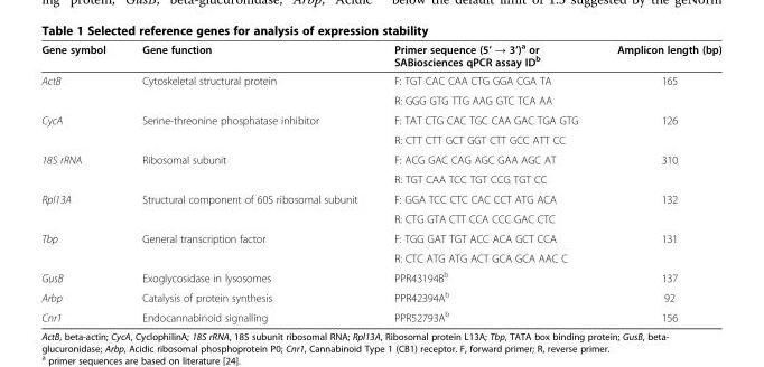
<table><thead><tr><td>Gene symbol</td><td>Gene function</td><td>Primer sequence (5’ → 3’)<sup>a</sup> or SABiosciences qPCR assay ID<sup>b</sup></td><td>Amplicon length (bp)</td></tr></thead><tbody><tr><td rowspan="2">ActB</td><td rowspan="2">Cytoskeletal structural protein</td><td>F: TGT CAC CAA CTG GGA CGA TA</td><td rowspan="2">165</td></tr><tr><td>R: GGG GTG TTG AAG GTC TCA AA</td></tr><tr><td rowspan="2">CycA</td><td rowspan="2">Serine-threonine phosphatase inhibitor</td><td>F: TAT CTG CAC TGC CAA GAC TGA GTG</td><td rowspan="2">126</td></tr><tr><td>R: CTT CTT GCT GGT CTT GCC ATT CC</td></tr><tr><td rowspan="2">18S rRNA</td><td rowspan="2">Ribosomal subunit</td><td>F: ACG GAC CAG AGC GAA AGC AT</td><td rowspan="2">310</td></tr><tr><td>R: TGT CAA TCC TGT CCG TGT CC</td></tr><tr><td rowspan="2">Rpl13A</td><td rowspan="2">Structural component of 60S ribosomal subunit</td><td>F: GGA TCC CTC CAC CCT ATG ACA</td><td rowspan="2">132</td></tr><tr><td>R: CTG GTA CTT CCA CCC GAC CTC</td></tr><tr><td rowspan="2">Tbp</td><td rowspan="2">General transcription factor</td><td>F: TGG GAT TGT ACC ACA GCT CCA</td><td rowspan="2">131</td></tr><tr><td>R: CTC ATG ATG ACT GCA GCA AAC C</td></tr><tr><td>GusB</td><td>Exoglycosidase in lysosomes</td><td>PPR43194B<sup>b</sup></td><td>137</td></tr><tr><td>Arbp</td><td>Catalysis of protein synthesis</td><td>PPR42394A<sup>b</sup></td><td>92</td></tr><tr><td>Cnr1</td><td>Endocannabinoid signalling</td><td>PPR52793A<sup>b</sup></td><td>156</td></tr></tbody></table>